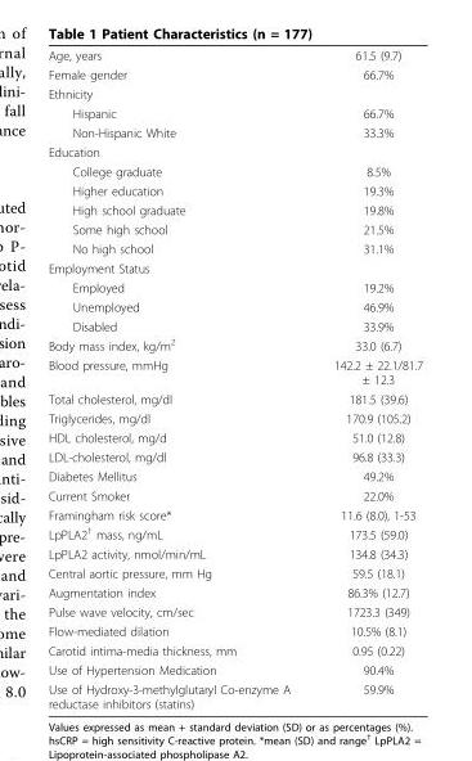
<table><tbody><tr><td>Age, years</td><td>61.5 (9.7)</td></tr><tr><td>Female gender</td><td>66.7%</td></tr><tr><td colspan="2">Ethnicity</td></tr><tr><td>Hispanic</td><td>66.7%</td></tr><tr><td>Non-Hispanic White</td><td>33.3%</td></tr><tr><td colspan="2">Education</td></tr><tr><td>College graduate</td><td>8.5%</td></tr><tr><td>Higher education</td><td>19.3%</td></tr><tr><td>High school graduate</td><td>19.8%</td></tr><tr><td>Some high school</td><td>21.5%</td></tr><tr><td>No high school</td><td>31.1%</td></tr><tr><td colspan="2">Employment Status</td></tr><tr><td>Employed</td><td>19.2%</td></tr><tr><td>Unemployed</td><td>46.9%</td></tr><tr><td>Disabled</td><td>33.9%</td></tr><tr><td>Body mass index, kg/m<sup>2</sup></td><td>33.0 (6.7)</td></tr><tr><td>Blood pressure, mmHg</td><td>142.2 ± 22.1/81.7 ± 12.3</td></tr><tr><td>Total cholesterol, mg/dl</td><td>181.5 (39.6)</td></tr><tr><td>Triglycerides, mg/dl</td><td>170.9 (105.2)</td></tr><tr><td>HDL cholesterol, mg/d</td><td>51.0 (12.8)</td></tr><tr><td>LDL-cholesterol, mg/dl</td><td>96.8 (33.3)</td></tr><tr><td>Diabetes Mellitus</td><td>49.2%</td></tr><tr><td>Current Smoker</td><td>22.0%</td></tr><tr><td>Framingham risk score*</td><td>11.6 (8.0), 1-53</td></tr><tr><td>LpPLA2<sup>†</sup> mass, ng/mL</td><td>173.5 (59.0)</td></tr><tr><td>LpPLA2 activity, nmol/min/mL</td><td>134.8 (34.3)</td></tr><tr><td>Central aortic pressure, mm Hg</td><td>59.5 (18.1)</td></tr><tr><td>Augmentation index</td><td>86.3% (12.7)</td></tr><tr><td>Pulse wave velocity, cm/sec</td><td>1723.3 (349)</td></tr><tr><td>Flow-mediated dilation</td><td>10.5% (8.1)</td></tr><tr><td>Carotid intima-media thickness, mm</td><td>0.95 (0.22)</td></tr><tr><td>Use of Hypertension Medication</td><td>90.4%</td></tr><tr><td>Use of Hydroxy-3-methylglutaryl Co-enzyme A reductase inhibitors (statins)</td><td>59.9%</td></tr></tbody></table>